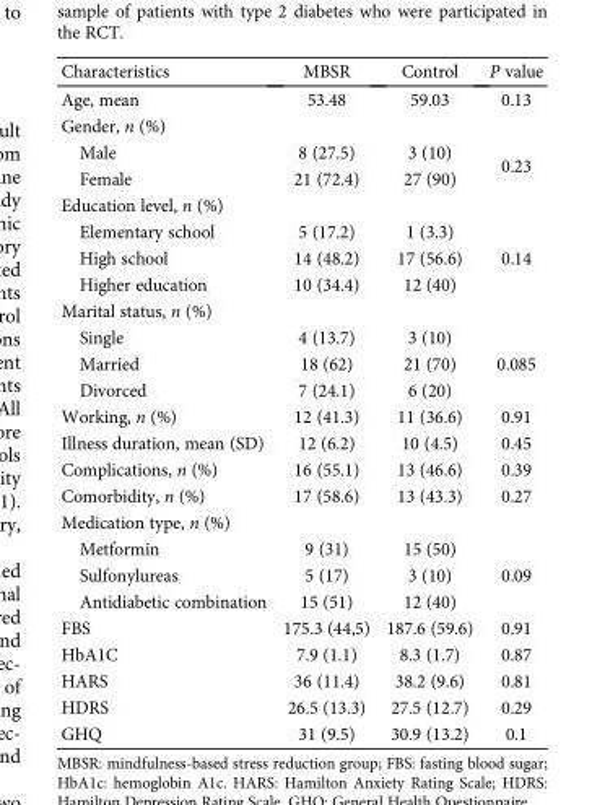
<table><thead><tr><td>Characteristics</td><td>MBSR</td><td>Control</td><td>P value</td></tr></thead><tbody><tr><td>Age, mean</td><td>53.48</td><td>59.03</td><td>0.13</td></tr><tr><td colspan="4">Gender, n (%)</td></tr><tr><td>Male</td><td>8 (27.5)</td><td>3 (10)</td><td rowspan="2">0.23</td></tr><tr><td>Female</td><td>21 (72.4)</td><td>27 (90)</td></tr><tr><td colspan="4">Education level, n (%)</td></tr><tr><td>Elementary school</td><td>5 (17.2)</td><td>1 (3.3)</td><td rowspan="3">0.14</td></tr><tr><td>High school</td><td>14 (48.2)</td><td>17 (56.6)</td></tr><tr><td>Higher education</td><td>10 (34.4)</td><td>12 (40)</td></tr><tr><td colspan="4">Marital status, n (%)</td></tr><tr><td>Single</td><td>4 (13.7)</td><td>3 (10)</td><td rowspan="3">0.085</td></tr><tr><td>Married</td><td>18 (62)</td><td>21 (70)</td></tr><tr><td>Divorced</td><td>7 (24.1)</td><td>6 (20)</td></tr><tr><td>Working, n (%)</td><td>12 (41.3)</td><td>11 (36.6)</td><td>0.91</td></tr><tr><td>Illness duration, mean (SD)</td><td>12 (6.2)</td><td>10 (4.5)</td><td>0.45</td></tr><tr><td>Complications, n (%)</td><td>16 (55.1)</td><td>13 (46.6)</td><td>0.39</td></tr><tr><td>Comorbidity, n (%)</td><td>17 (58.6)</td><td>13 (43.3)</td><td>0.27</td></tr><tr><td colspan="4">Medication type, n (%)</td></tr><tr><td>Metformin</td><td>9 (31)</td><td>15 (50)</td><td rowspan="3">0.09</td></tr><tr><td>Sulfonylureas</td><td>5 (17)</td><td>3 (10)</td></tr><tr><td>Antidiabetic combination</td><td>15 (51)</td><td>12 (40)</td></tr><tr><td>FBS</td><td>175.3 (44,5)</td><td>187.6 (59.6)</td><td>0.91</td></tr><tr><td>HbA1C</td><td>7.9 (1.1)</td><td>8.3 (1.7)</td><td>0.87</td></tr><tr><td>HARS</td><td>36 (11.4)</td><td>38.2 (9.6)</td><td>0.81</td></tr><tr><td>HDRS</td><td>26.5 (13.3)</td><td>27.5 (12.7)</td><td>0.29</td></tr><tr><td>GHQ</td><td>31 (9.5)</td><td>30.9 (13.2)</td><td>0.1</td></tr></tbody></table>